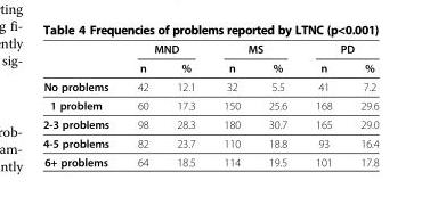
<table><thead><tr><td rowspan="2"></td><td colspan="2">MND</td><td colspan="2">MS</td><td colspan="2">PD</td></tr><tr><td>n</td><td>%</td><td>n</td><td>%</td><td>n</td><td>%</td></tr></thead><tbody><tr><td>No problems</td><td>42</td><td>12.1</td><td>32</td><td>5.5</td><td>41</td><td>7.2</td></tr><tr><td>1 problem</td><td>60</td><td>17.3</td><td>150</td><td>25.6</td><td>168</td><td>29.6</td></tr><tr><td>2-3 problems</td><td>98</td><td>28.3</td><td>180</td><td>30.7</td><td>165</td><td>29.0</td></tr><tr><td>4-5 problems</td><td>82</td><td>23.7</td><td>110</td><td>18.8</td><td>93</td><td>16.4</td></tr><tr><td>6+ problems</td><td>64</td><td>18.5</td><td>114</td><td>19.5</td><td>101</td><td>17.8</td></tr></tbody></table>